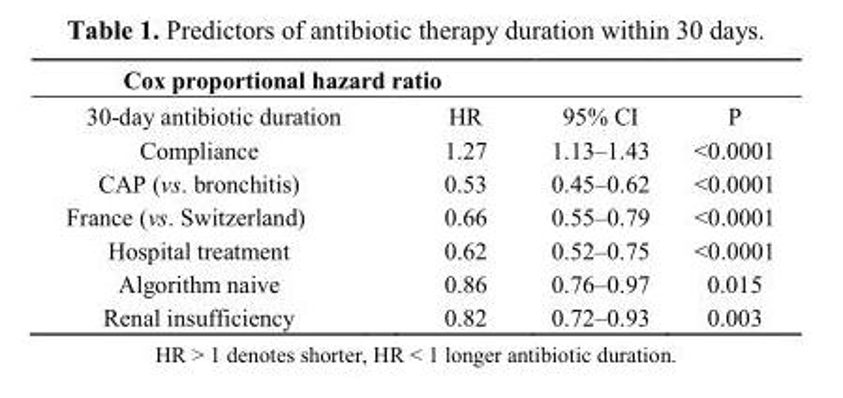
<table><thead><tr><td colspan="2">Cox proportional hazard ratio</td><td rowspan="2">95% CI</td><td rowspan="2">P</td></tr><tr><td>30-day antibiotic duration</td><td>HR</td></tr></thead><tbody><tr><td>Compliance</td><td>1.27</td><td>1.13–1.43</td><td>&lt;0.0001</td></tr><tr><td>CAP (vs. bronchitis)</td><td>0.53</td><td>0.45–0.62</td><td>&lt;0.0001</td></tr><tr><td>France (vs. Switzerland)</td><td>0.66</td><td>0.55–0.79</td><td>&lt;0.0001</td></tr><tr><td>Hospital treatment</td><td>0.62</td><td>0.52–0.75</td><td>&lt;0.0001</td></tr><tr><td>Algorithm naive</td><td>0.86</td><td>0.76–0.97</td><td>0.015</td></tr><tr><td>Renal insufficiency</td><td>0.82</td><td>0.72–0.93</td><td>0.003</td></tr></tbody></table>